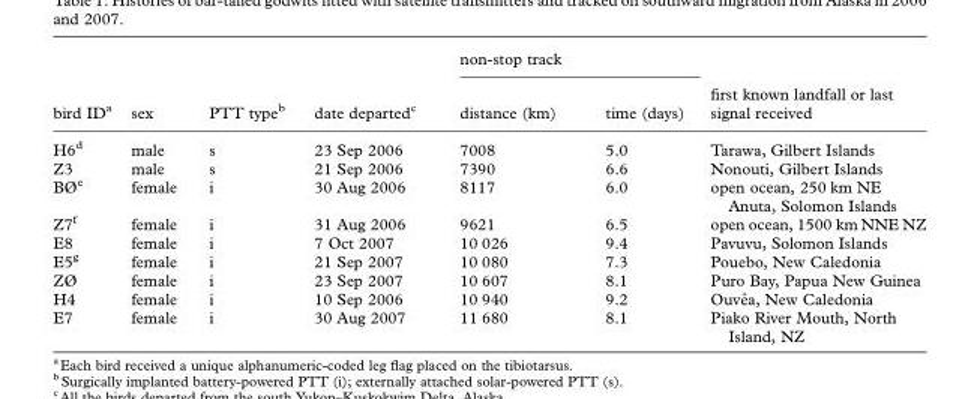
<table><thead><tr><td rowspan="2">bird ID<sup>a</sup></td><td rowspan="2">sex</td><td rowspan="2">PTT type<sup>b</sup></td><td rowspan="2">date departed<sup>c</sup></td><td colspan="2">non-stop track</td><td rowspan="2">first known landfall or last signal received</td></tr><tr><td>distance (km)</td><td>time (days)</td></tr></thead><tbody><tr><td>H6<sup>d</sup></td><td>male</td><td>s</td><td>23 Sep 2006</td><td>7008</td><td>5.0</td><td>Tarawa, Gilbert Islands</td></tr><tr><td>Z3</td><td>male</td><td>s</td><td>21 Sep 2006</td><td>7390</td><td>6.6</td><td>Nonouti, Gilbert Islands</td></tr><tr><td>BØ<sup>e</sup></td><td>female</td><td>i</td><td>30 Aug 2006</td><td>8117</td><td>6.0</td><td>open ocean, 250 km NE Anuta, Solomon Islands</td></tr><tr><td>Z7<sup>f</sup></td><td>female</td><td>i</td><td>31 Aug 2006</td><td>9621</td><td>6.5</td><td>open ocean, 1500 km NNE NZ</td></tr><tr><td>E8</td><td>female</td><td>i</td><td>7 Oct 2007</td><td>10 026</td><td>9.4</td><td>Pavuvu, Solomon Islands</td></tr><tr><td>E5<sup>g</sup></td><td>female</td><td>i</td><td>21 Sep 2007</td><td>10 080</td><td>7.3</td><td>Pouebo, New Caledonia</td></tr><tr><td>ZØ</td><td>female</td><td>i</td><td>23 Sep 2007</td><td>10 607</td><td>8.1</td><td>Puro Bay, Papua New Guinea</td></tr><tr><td>H4</td><td>female</td><td>i</td><td>10 Sep 2006</td><td>10 940</td><td>9.2</td><td>Ouveˆa, New Caledonia</td></tr><tr><td>E7</td><td>female</td><td>i</td><td>30 Aug 2007</td><td>11 680</td><td>8.1</td><td>Piako River Mouth, North Island, NZ</td></tr></tbody></table>